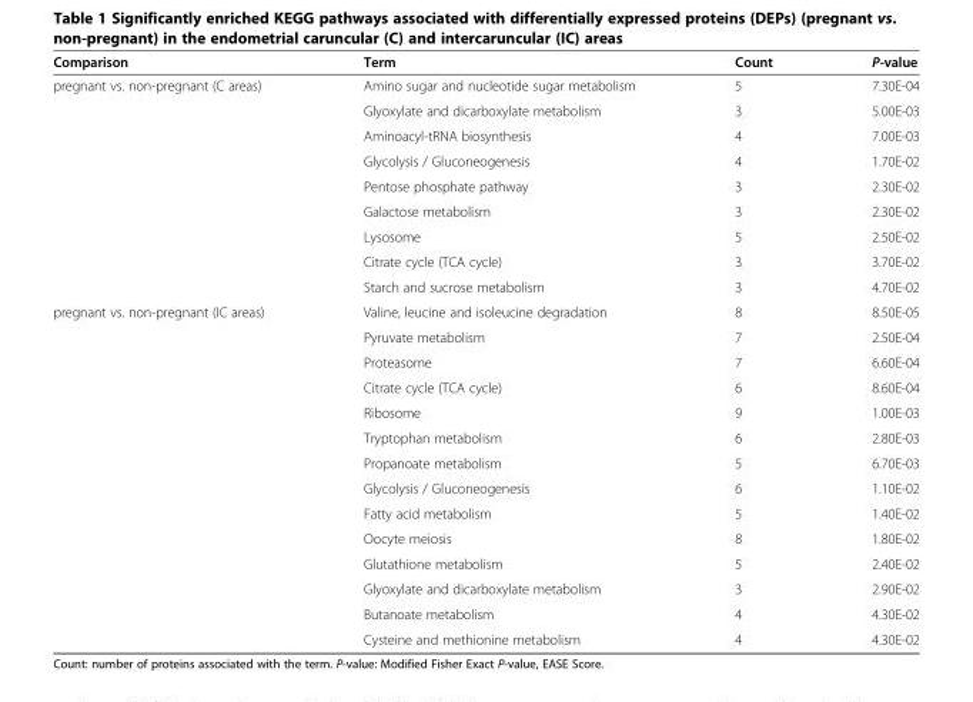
<table><thead><tr><td>Comparison</td><td>Term</td><td>Count</td><td>P-value</td></tr></thead><tbody><tr><td rowspan="9">pregnant vs. non-pregnant (C areas)</td><td>Amino sugar and nucleotide sugar metabolism</td><td>5</td><td>7.30E-04</td></tr><tr><td>Glyoxylate and dicarboxylate metabolism</td><td>3</td><td>5.00E-03</td></tr><tr><td>Aminoacyl-tRNA biosynthesis</td><td>4</td><td>7.00E-03</td></tr><tr><td>Glycolysis / Gluconeogenesis</td><td>4</td><td>1.70E-02</td></tr><tr><td>Pentose phosphate pathway</td><td>3</td><td>2.30E-02</td></tr><tr><td>Galactose metabolism</td><td>3</td><td>2.30E-02</td></tr><tr><td>Lysosome</td><td>5</td><td>2.50E-02</td></tr><tr><td>Citrate cycle (TCA cycle)</td><td>3</td><td>3.70E-02</td></tr><tr><td>Starch and sucrose metabolism</td><td>3</td><td>4.70E-02</td></tr><tr><td rowspan="14">pregnant vs. non-pregnant (IC areas)</td><td>Valine, leucine and isoleucine degradation</td><td>8</td><td>8.50E-05</td></tr><tr><td>Pyruvate metabolism</td><td>7</td><td>2.50E-04</td></tr><tr><td>Proteasome</td><td>7</td><td>6.60E-04</td></tr><tr><td>Citrate cycle (TCA cycle)</td><td>6</td><td>8.60E-04</td></tr><tr><td>Ribosome</td><td>9</td><td>1.00E-03</td></tr><tr><td>Tryptophan metabolism</td><td>6</td><td>2.80E-03</td></tr><tr><td>Propanoate metabolism</td><td>5</td><td>6.70E-03</td></tr><tr><td>Glycolysis / Gluconeogenesis</td><td>6</td><td>1.10E-02</td></tr><tr><td>Fatty acid metabolism</td><td>5</td><td>1.40E-02</td></tr><tr><td>Oocyte meiosis</td><td>8</td><td>1.80E-02</td></tr><tr><td>Glutathione metabolism</td><td>5</td><td>2.40E-02</td></tr><tr><td>Glyoxylate and dicarboxylate metabolism</td><td>3</td><td>2.90E-02</td></tr><tr><td>Butanoate metabolism</td><td>4</td><td>4.30E-02</td></tr><tr><td>Cysteine and methionine metabolism</td><td>4</td><td>4.30E-02</td></tr></tbody></table>